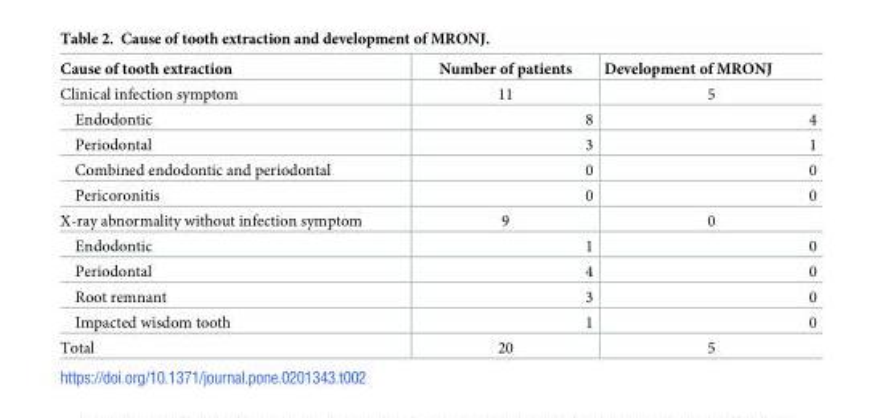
<table><thead><tr><td>Cause of tooth extraction</td><td>Number of patients</td><td>Development of MRONJ</td></tr></thead><tbody><tr><td>Clinical infection symptom</td><td>11</td><td>5</td></tr><tr><td>Endodontic</td><td>8</td><td>4</td></tr><tr><td>Periodontal</td><td>3</td><td>1</td></tr><tr><td>Combined endodontic and periodontal</td><td>0</td><td>0</td></tr><tr><td>Pericoronitis</td><td>0</td><td>0</td></tr><tr><td>X-ray abnormality without infection symptom</td><td>9</td><td>0</td></tr><tr><td>Endodontic</td><td>1</td><td>0</td></tr><tr><td>Periodontal</td><td>4</td><td>0</td></tr><tr><td>Root remnant</td><td>3</td><td>0</td></tr><tr><td>Impacted wisdom tooth</td><td>1</td><td>0</td></tr><tr><td>Total</td><td>20</td><td>5</td></tr></tbody></table>